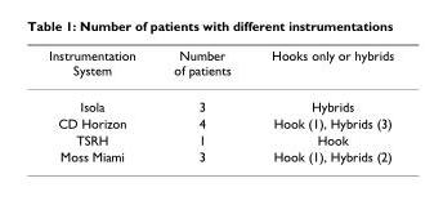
<table><thead><tr><td>Instrumentation System</td><td>Number of patients</td><td>Hooks only or hybrids</td></tr></thead><tbody><tr><td>Isola</td><td>3</td><td>Hybrids</td></tr><tr><td>CD Horizon</td><td>4</td><td>Hook (1), Hybrids (3)</td></tr><tr><td>TSRH</td><td>1</td><td>Hook</td></tr><tr><td>Moss Miami</td><td>3</td><td>Hook (1), Hybrids (2)</td></tr></tbody></table>